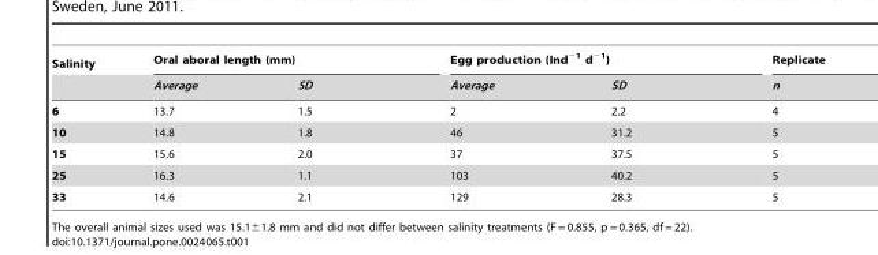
<table><thead><tr><td rowspan="2">Salinity</td><td colspan="2">Oral aboral length (mm)</td><td colspan="2">Egg production (Ind<sup>−1</sup> d<sup>−1</sup>)</td><td rowspan="2">Replicate n</td></tr><tr><td>Average</td><td>SD</td><td>Average</td><td>SD</td></tr></thead><tbody><tr><td>6</td><td>13.7</td><td>1.5</td><td>2</td><td>2.2</td><td>4</td></tr><tr><td>10</td><td>14.8</td><td>1.8</td><td>46</td><td>31.2</td><td>5</td></tr><tr><td>15</td><td>15.6</td><td>2.0</td><td>37</td><td>37.5</td><td>5</td></tr><tr><td>25</td><td>16.3</td><td>1.1</td><td>103</td><td>40.2</td><td>5</td></tr><tr><td>33</td><td>14.6</td><td>2.1</td><td>129</td><td>28.3</td><td>5</td></tr></tbody></table>